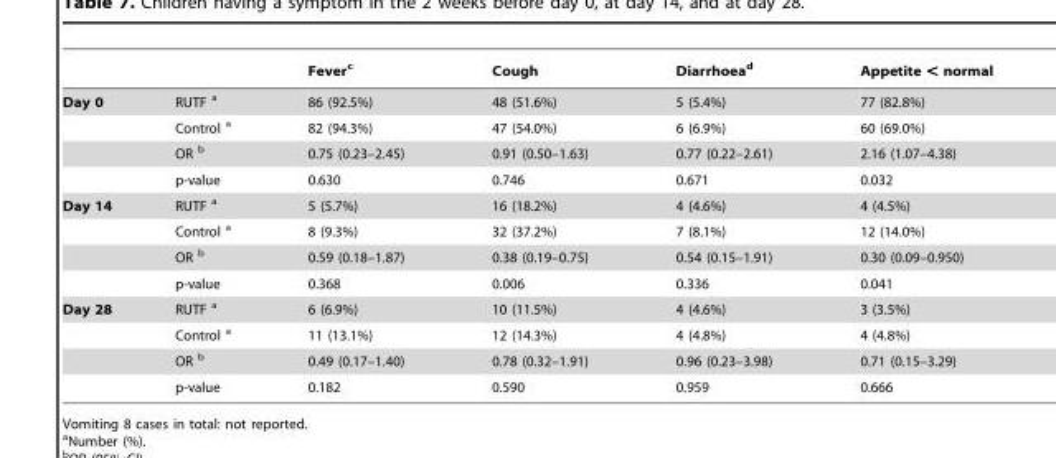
<table><thead><tr><td></td><td></td><td>Fever<sup>c</sup></td><td>Cough</td><td>Diarrhoea<sup>d</sup></td><td>Appetite &lt; normal</td></tr></thead><tbody><tr><td rowspan="4">Day 0</td><td>RUTF a</td><td>86 (92.5%)</td><td>48 (51.6%)</td><td>5 (5.4%)</td><td>77 (82.8%)</td></tr><tr><td>Control a</td><td>82 (94.3%)</td><td>47 (54.0%)</td><td>6 (6.9%)</td><td>60 (69.0%)</td></tr><tr><td>OR b</td><td>0.75 (0.23–2.45)</td><td>0.91 (0.50–1.63)</td><td>0.77 (0.22–2.61)</td><td>2.16 (1.07–4.38)</td></tr><tr><td>p-value</td><td>0.630</td><td>0.746</td><td>0.671</td><td>0.032</td></tr><tr><td rowspan="4">Day 14</td><td>RUTF a</td><td>5 (5.7%)</td><td>16 (18.2%)</td><td>4 (4.6%)</td><td>4 (4.5%)</td></tr><tr><td>Control a</td><td>8 (9.3%)</td><td>32 (37.2%)</td><td>7 (8.1%)</td><td>12 (14.0%)</td></tr><tr><td>OR b</td><td>0.59 (0.18–1.87)</td><td>0.38 (0.19–0.75)</td><td>0.54 (0.15–1.91)</td><td>0.30 (0.09–0.950)</td></tr><tr><td>p-value</td><td>0.368</td><td>0.006</td><td>0.336</td><td>0.041</td></tr><tr><td rowspan="4">Day 28</td><td>RUTF a</td><td>6 (6.9%)</td><td>10 (11.5%)</td><td>4 (4.6%)</td><td>3 (3.5%)</td></tr><tr><td>Control a</td><td>11 (13.1%)</td><td>12 (14.3%)</td><td>4 (4.8%)</td><td>4 (4.8%)</td></tr><tr><td>OR b</td><td>0.49 (0.17–1.40)</td><td>0.78 (0.32–1.91)</td><td>0.96 (0.23–3.98)</td><td>0.71 (0.15–3.29)</td></tr><tr><td>p-value</td><td>0.182</td><td>0.590</td><td>0.959</td><td>0.666</td></tr></tbody></table>